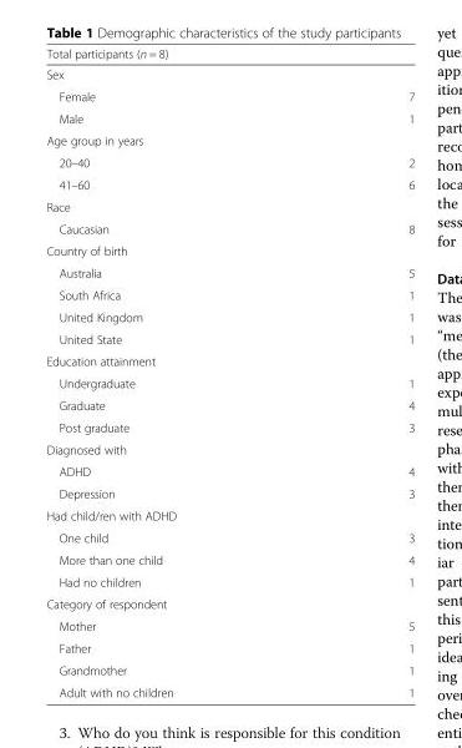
<table><thead><tr><td rowspan="2" colspan="2">Total participants (n = 8) Sex</td></tr><tr></tr><tr><td>Female</td><td>7</td></tr></thead><tbody><tr><td>Male</td><td>1</td></tr><tr><td colspan="2">Age group in years</td></tr><tr><td>20–40</td><td>2</td></tr><tr><td>41–60</td><td>6</td></tr><tr><td colspan="2">Race</td></tr><tr><td>Caucasian</td><td>8</td></tr><tr><td colspan="2">Country of birth</td></tr><tr><td>Australia</td><td>5</td></tr><tr><td>South Africa</td><td>1</td></tr><tr><td>United Kingdom</td><td>1</td></tr><tr><td>United State</td><td>1</td></tr><tr><td colspan="2">Education attainment</td></tr><tr><td>Undergraduate</td><td>1</td></tr><tr><td>Graduate</td><td>4</td></tr><tr><td>Post graduate</td><td>3</td></tr><tr><td colspan="2">Diagnosed with</td></tr><tr><td>ADHD</td><td>4</td></tr><tr><td>Depression</td><td>3</td></tr><tr><td colspan="2">Had child/ren with ADHD</td></tr><tr><td>One child</td><td>3</td></tr><tr><td>More than one child</td><td>4</td></tr><tr><td>Had no children</td><td>1</td></tr><tr><td colspan="2">Category of respondent</td></tr><tr><td>Mother</td><td>5</td></tr><tr><td>Father</td><td>1</td></tr><tr><td>Grandmother</td><td>1</td></tr><tr><td>Adult with no children</td><td>1</td></tr></tbody></table>